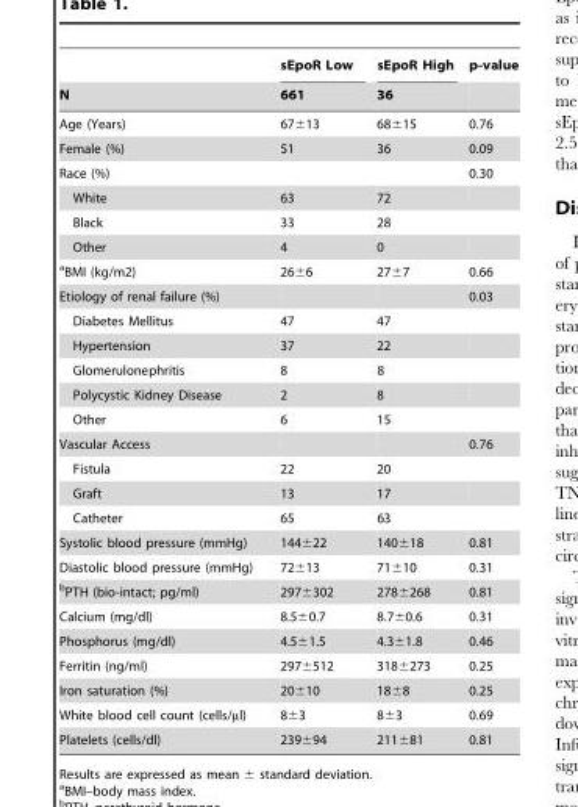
<table><thead><tr><td rowspan="2">N</td><td rowspan="2">sEpoR Low 661</td><td rowspan="2">sEpoR High 36</td><td rowspan="2">p-value</td></tr><tr></tr></thead><tbody><tr><td>Age (Years)</td><td>67±13</td><td>68±15</td><td>0.76</td></tr><tr><td>Female (%)</td><td>51</td><td>36</td><td>0.09</td></tr><tr><td>Race (%)</td><td></td><td></td><td>0.30</td></tr><tr><td>White</td><td>63</td><td>72</td><td></td></tr><tr><td>Black</td><td>33</td><td>28</td><td></td></tr><tr><td>Other</td><td>4</td><td>0</td><td></td></tr><tr><td>aBMI (kg/m2)</td><td>26±6</td><td>27±7</td><td>0.66</td></tr><tr><td>Etiology of renal failure (%)</td><td></td><td></td><td>0.03</td></tr><tr><td>Diabetes Mellitus</td><td>47</td><td>47</td><td></td></tr><tr><td>Hypertension</td><td>37</td><td>22</td><td></td></tr><tr><td>Glomerulonephritis</td><td>8</td><td>8</td><td></td></tr><tr><td>Polycystic Kidney Disease</td><td>2</td><td>8</td><td></td></tr><tr><td>Other</td><td>6</td><td>15</td><td></td></tr><tr><td>Vascular Access</td><td></td><td></td><td>0.76</td></tr><tr><td>Fistula</td><td>22</td><td>20</td><td></td></tr><tr><td>Graft</td><td>13</td><td>17</td><td></td></tr><tr><td>Catheter</td><td>65</td><td>63</td><td></td></tr><tr><td>Systolic blood pressure (mmHg)</td><td>144±22</td><td>140±18</td><td>0.81</td></tr><tr><td>Diastolic blood pressure (mmHg)</td><td>72±13</td><td>71±10</td><td>0.31</td></tr><tr><td>bPTH (bio-intact; pg/ml)</td><td>297±302</td><td>278±268</td><td>0.81</td></tr><tr><td>Calcium (mg/dl)</td><td>8.5±0.7</td><td>8.7±0.6</td><td>0.31</td></tr><tr><td>Phosphorus (mg/dl)</td><td>4.5±1.5</td><td>4.3±1.8</td><td>0.46</td></tr><tr><td>Ferritin (ng/ml)</td><td>297±512</td><td>318±273</td><td>0.25</td></tr><tr><td>Iron saturation (%)</td><td>20±10</td><td>18±8</td><td>0.25</td></tr><tr><td>White blood cell count (cells/µl)</td><td>8±3</td><td>8±3</td><td>0.69</td></tr><tr><td>Platelets (cells/dl)</td><td>239±94</td><td>211±81</td><td>0.81</td></tr></tbody></table>